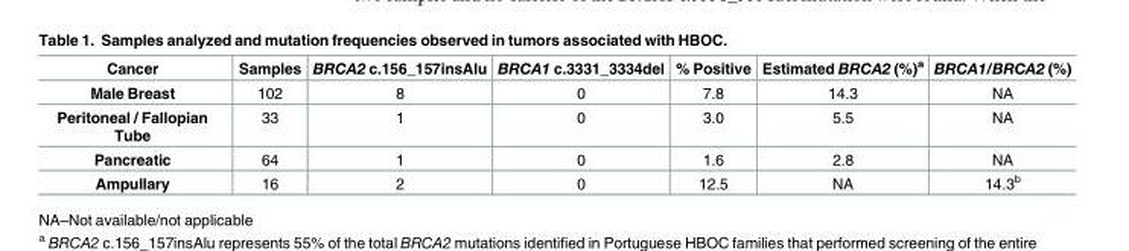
<table><thead><tr><td>Cancer</td><td>Samples</td><td>BRCA2 c.156_157insAlu</td><td>BRCA1 c.3331_3334del</td><td>% Positive</td><td>Estimated BRCA2 (%)<sup>a</sup></td><td>BRCA1/BRCA2 (%)</td></tr></thead><tbody><tr><td>Male Breast</td><td>102</td><td>8</td><td>0</td><td>7.8</td><td>14.3</td><td>NA</td></tr><tr><td>Peritoneal / Fallopian Tube</td><td>33</td><td>1</td><td>0</td><td>3.0</td><td>5.5</td><td>NA</td></tr><tr><td>Pancreatic</td><td>64</td><td>1</td><td>0</td><td>1.6</td><td>2.8</td><td>NA</td></tr><tr><td>Ampullary</td><td>16</td><td>2</td><td>0</td><td>12.5</td><td>NA</td><td>14.3<sup>b</sup></td></tr></tbody></table>